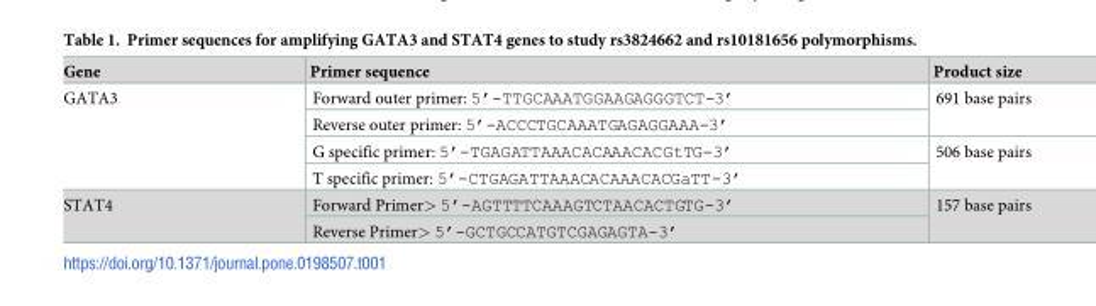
<table><thead><tr><td>Gene</td><td>Primer sequence</td><td>Product size</td></tr></thead><tbody><tr><td rowspan="4">GATA3</td><td>Forward outer primer: 5’-TTGCAAATGGAAGAGGGTCT-3’</td><td rowspan="2">691 base pairs</td></tr><tr><td>Reverse outer primer: 5’-ACCCTGCAAATGAGAGGAAA-3’</td></tr><tr><td>G specific primer: 5’-TGAGATTAAACACAAACACGtTG-3’</td><td rowspan="2">506 base pairs</td></tr><tr><td>T specific primer: 5’-CTGAGATTAAACACAAACACGaTT-3’</td></tr><tr><td rowspan="2">STAT4</td><td>Forward Primer&gt; 5’-AGTTTTCAAAGTCTAACACTGTG-3’</td><td rowspan="2">157 base pairs</td></tr><tr><td>Reverse Primer&gt; 5’-GCTGCCATGTCGAGAGTA-3’</td></tr></tbody></table>